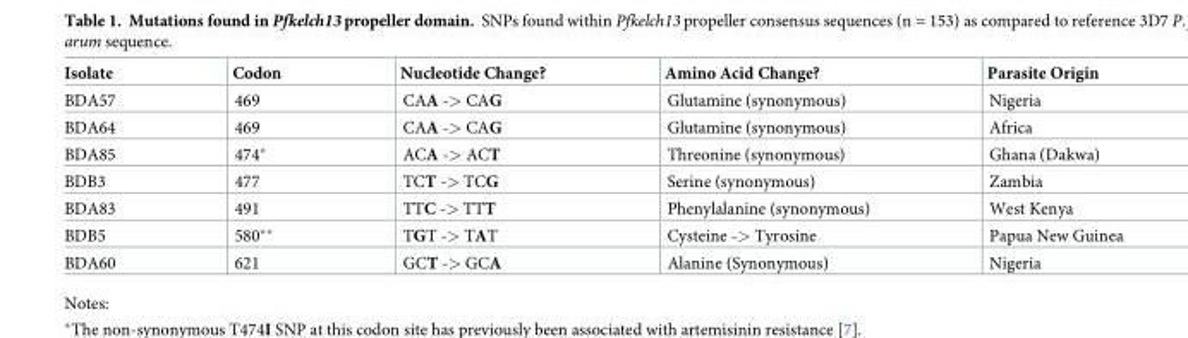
<table><thead><tr><td>Isolate</td><td>Codon</td><td>Nucleotide Change?</td><td>Amino Acid Change?</td><td>Parasite Origin</td></tr></thead><tbody><tr><td>BDA57</td><td>469</td><td>CAA -&gt; CAG</td><td>Glutamine (synonymous)</td><td>Nigeria</td></tr><tr><td>BDA64</td><td>469</td><td>CAA -&gt; CAG</td><td>Glutamine (synonymous)</td><td>Africa</td></tr><tr><td>BDA85</td><td>474*</td><td>ACA -&gt; ACT</td><td>Threonine (synonymous)</td><td>Ghana (Dakwa)</td></tr><tr><td>BDB3</td><td>477</td><td>TCT -&gt; TCG</td><td>Serine (synonymous)</td><td>Zambia</td></tr><tr><td>BDA83</td><td>491</td><td>TTC -&gt; TTT</td><td>Phenylalanine (synonymous)</td><td>West Kenya</td></tr><tr><td>BDB5</td><td>580**</td><td>TGT -&gt; TAT</td><td>Cysteine -&gt; Tyrosine</td><td>Papua New Guinea</td></tr><tr><td>BDA60</td><td>621</td><td>GCT -&gt; GCA</td><td>Alanine (Synonymous)</td><td>Nigeria</td></tr></tbody></table>